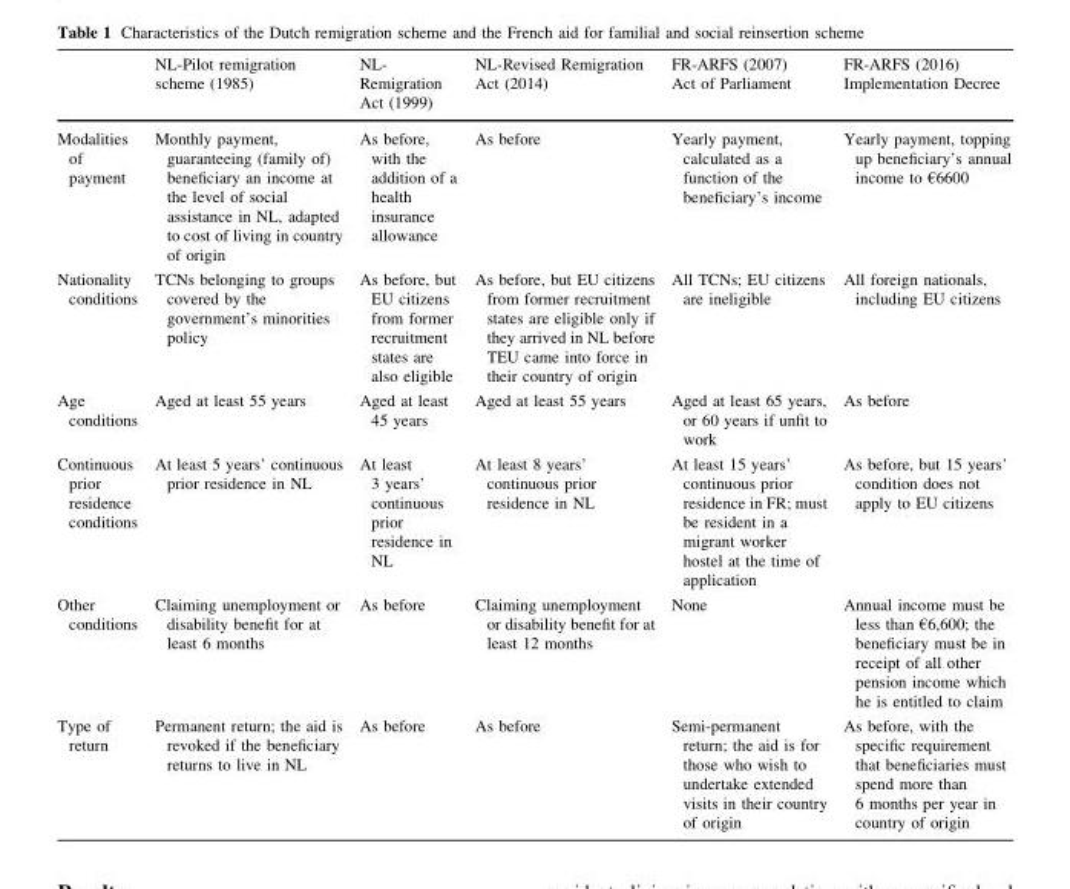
<table><thead><tr><td></td><td>NL-Pilot remigration scheme (1985)</td><td>NL- Remigration Act (1999)</td><td>NL-Revised Remigration Act (2014)</td><td>FR-ARFS (2007) Act of Parliament</td><td>FR-ARFS (2016) Implementation Decree</td></tr></thead><tbody><tr><td>Modalities of payment</td><td>Monthly payment, guaranteeing (family of) beneficiary an income at the level of social assistance in NL, adapted to cost of living in country of origin</td><td>As before, with the addition of a health insurance allowance</td><td>As before</td><td>Yearly payment, calculated as a function of the beneficiary’s income</td><td>Yearly payment, topping up beneficiary’s annual income to €6600</td></tr><tr><td>Nationality conditions</td><td>TCNs belonging to groups covered by the government’s minorities policy</td><td>As before, but EU citizens from former recruitment states are also eligible</td><td>As before, but EU citizens from former recruitment states are eligible only if they arrived in NL before TEU came into force in their country of origin</td><td>All TCNs; EU citizens are ineligible</td><td>All foreign nationals, including EU citizens</td></tr><tr><td>Age conditions</td><td>Aged at least 55 years</td><td>Aged at least 45 years</td><td>Aged at least 55 years</td><td>Aged at least 65 years, or 60 years if unfit to work</td><td>As before</td></tr><tr><td>Continuous prior residence conditions</td><td>At least 5 years’ continuous prior residence in NL</td><td>At least 3 years’ continuous prior residence in NL</td><td>At least 8 years’ continuous prior residence in NL</td><td>At least 15 years’ continuous prior residence in FR; must be resident in a migrant worker hostel at the time of application</td><td>As before, but 15 years’ condition does not apply to EU citizens</td></tr><tr><td>Other conditions</td><td>Claiming unemployment or disability benefit for at least 6 months</td><td>As before</td><td>Claiming unemployment or disability benefit for at least 12 months</td><td>None</td><td>Annual income must be less than €6,600; the beneficiary must be in receipt of all other pension income which he is entitled to claim</td></tr><tr><td>Type of return</td><td>Permanent return; the aid is revoked if the beneficiary returns to live in NL</td><td>As before</td><td>As before</td><td>Semi-permanent return; the aid is for those who wish to undertake extended visits in their country of origin</td><td>As before, with the specific requirement that beneficiaries must spend more than 6 months per year in country of origin</td></tr></tbody></table>